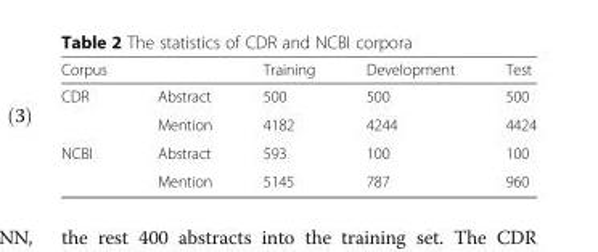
<table><thead><tr><td>Corpus</td><td></td><td>Training</td><td>Development</td><td>Test</td></tr></thead><tbody><tr><td rowspan="2">CDR</td><td>Abstract</td><td>500</td><td>500</td><td>500</td></tr><tr><td>Mention</td><td>4182</td><td>4244</td><td>4424</td></tr><tr><td rowspan="2">NCBI</td><td>Abstract</td><td>593</td><td>100</td><td>100</td></tr><tr><td>Mention</td><td>5145</td><td>787</td><td>960</td></tr></tbody></table>